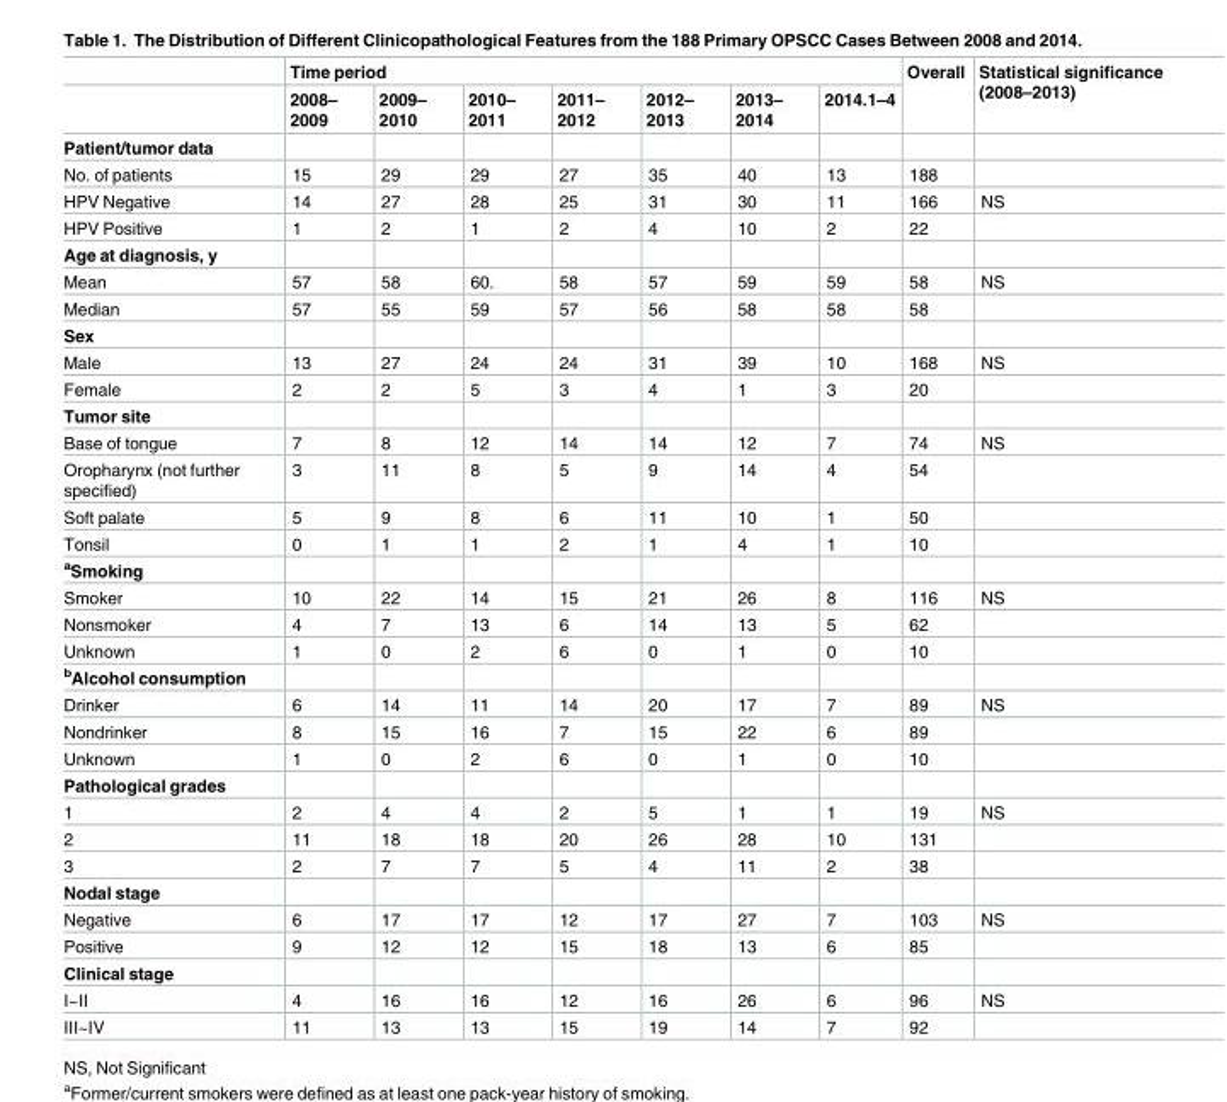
<table><thead><tr><td rowspan="2"></td><td colspan="7">Time period</td><td rowspan="2">Overall</td><td rowspan="2">Statistical significance (2008–2013)</td></tr><tr><td>2008– 2009</td><td>2009– 2010</td><td>2010– 2011</td><td>2011– 2012</td><td>2012– 2013</td><td>2013– 2014</td><td>2014.1–4</td></tr></thead><tbody><tr><td colspan="10">Patient/tumor data</td></tr><tr><td>No. of patients</td><td>15</td><td>29</td><td>29</td><td>27</td><td>35</td><td>40</td><td>13</td><td>188</td><td></td></tr><tr><td>HPV Negative</td><td>14</td><td>27</td><td>28</td><td>25</td><td>31</td><td>30</td><td>11</td><td>166</td><td>NS</td></tr><tr><td>HPV Positive</td><td>1</td><td>2</td><td>1</td><td>2</td><td>4</td><td>10</td><td>2</td><td>22</td><td></td></tr><tr><td colspan="10">Age at diagnosis, y</td></tr><tr><td>Mean</td><td>57</td><td>58</td><td>60.</td><td>58</td><td>57</td><td>59</td><td>59</td><td>58</td><td>NS</td></tr><tr><td>Median</td><td>57</td><td>55</td><td>59</td><td>57</td><td>56</td><td>58</td><td>58</td><td>58</td><td></td></tr><tr><td colspan="10">Sex</td></tr><tr><td>Male</td><td>13</td><td>27</td><td>24</td><td>24</td><td>31</td><td>39</td><td>10</td><td>168</td><td>NS</td></tr><tr><td>Female</td><td>2</td><td>2</td><td>5</td><td>3</td><td>4</td><td>1</td><td>3</td><td>20</td><td></td></tr><tr><td colspan="10">Tumor site</td></tr><tr><td>Base of tongue</td><td>7</td><td>8</td><td>12</td><td>14</td><td>14</td><td>12</td><td>7</td><td>74</td><td>NS</td></tr><tr><td>Oropharynx (not further specified)</td><td>3</td><td>11</td><td>8</td><td>5</td><td>9</td><td>14</td><td>4</td><td>54</td><td></td></tr><tr><td>Soft palate</td><td>5</td><td>9</td><td>8</td><td>6</td><td>11</td><td>10</td><td>1</td><td>50</td><td></td></tr><tr><td>Tonsil</td><td>0</td><td>1</td><td>1</td><td>2</td><td>1</td><td>4</td><td>1</td><td>10</td><td></td></tr><tr><td colspan="10"><sup>a</sup>Smoking</td></tr><tr><td>Smoker</td><td>10</td><td>22</td><td>14</td><td>15</td><td>21</td><td>26</td><td>8</td><td>116</td><td>NS</td></tr><tr><td>Nonsmoker</td><td>4</td><td>7</td><td>13</td><td>6</td><td>14</td><td>13</td><td>5</td><td>62</td><td></td></tr><tr><td>Unknown</td><td>1</td><td>0</td><td>2</td><td>6</td><td>0</td><td>1</td><td>0</td><td>10</td><td></td></tr><tr><td colspan="10"><sup>b</sup>Alcohol consumption</td></tr><tr><td>Drinker</td><td>6</td><td>14</td><td>11</td><td>14</td><td>20</td><td>17</td><td>7</td><td>89</td><td>NS</td></tr><tr><td>Nondrinker</td><td>8</td><td>15</td><td>16</td><td>7</td><td>15</td><td>22</td><td>6</td><td>89</td><td></td></tr><tr><td>Unknown</td><td>1</td><td>0</td><td>2</td><td>6</td><td>0</td><td>1</td><td>0</td><td>10</td><td></td></tr><tr><td colspan="10">Pathological grades</td></tr><tr><td>1</td><td>2</td><td>4</td><td>4</td><td>2</td><td>5</td><td>1</td><td>1</td><td>19</td><td>NS</td></tr><tr><td>2</td><td>11</td><td>18</td><td>18</td><td>20</td><td>26</td><td>28</td><td>10</td><td>131</td><td></td></tr><tr><td>3</td><td>2</td><td>7</td><td>7</td><td>5</td><td>4</td><td>11</td><td>2</td><td>38</td><td></td></tr><tr><td colspan="10">Nodal stage</td></tr><tr><td>Negative</td><td>6</td><td>17</td><td>17</td><td>12</td><td>17</td><td>27</td><td>7</td><td>103</td><td>NS</td></tr><tr><td>Positive</td><td>9</td><td>12</td><td>12</td><td>15</td><td>18</td><td>13</td><td>6</td><td>85</td><td></td></tr><tr><td colspan="10">Clinical stage</td></tr><tr><td>I~II</td><td>4</td><td>16</td><td>16</td><td>12</td><td>16</td><td>26</td><td>6</td><td>96</td><td>NS</td></tr><tr><td>III~IV</td><td>11</td><td>13</td><td>13</td><td>15</td><td>19</td><td>14</td><td>7</td><td>92</td><td></td></tr></tbody></table>